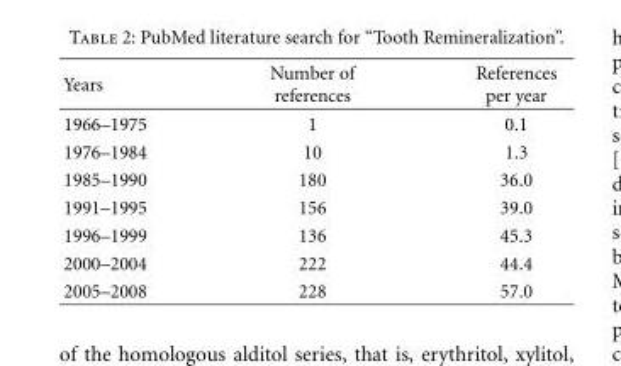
<table><thead><tr><td>Years</td><td>Number of references</td><td>References per year</td></tr></thead><tbody><tr><td>1966–1975</td><td>1</td><td>0.1</td></tr><tr><td>1976–1984</td><td>10</td><td>1.3</td></tr><tr><td>1985–1990</td><td>180</td><td>36.0</td></tr><tr><td>1991–1995</td><td>156</td><td>39.0</td></tr><tr><td>1996–1999</td><td>136</td><td>45.3</td></tr><tr><td>2000–2004</td><td>222</td><td>44.4</td></tr><tr><td>2005–2008</td><td>228</td><td>57.0</td></tr></tbody></table>